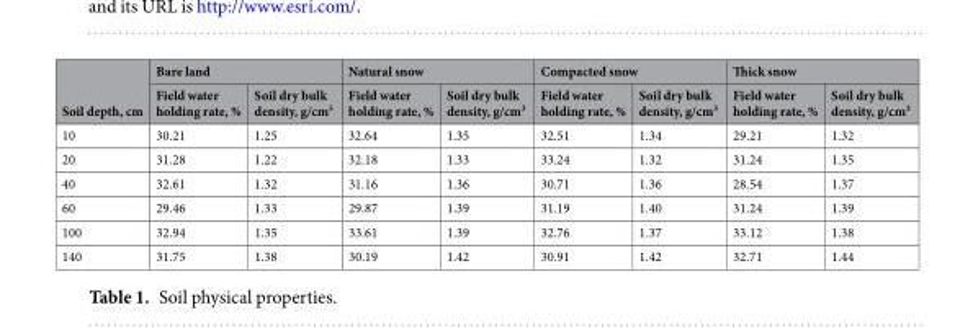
<table><thead><tr><td rowspan="2">Soil depth, cm</td><td colspan="2">Bare land</td><td colspan="2">Natural snow</td><td colspan="2">Compacted snow</td><td colspan="2">Thick snow</td></tr><tr><td>Field water holding rate, %</td><td>Soil dry bulk density, g/cm<sup>3</sup></td><td>Field water holding rate, %</td><td>Soil dry bulk density, g/cm<sup>3</sup></td><td>Field water holding rate, %</td><td>Soil dry bulk density, g/cm<sup>3</sup></td><td>Field water holding rate, %</td><td>Soil dry bulk density, g/cm<sup>3</sup></td></tr></thead><tbody><tr><td>10</td><td>30.21</td><td>1.25</td><td>32.64</td><td>1.35</td><td>32.51</td><td>1.34</td><td>29.21</td><td>1.32</td></tr><tr><td>20</td><td>31.28</td><td>1.22</td><td>32.18</td><td>1.33</td><td>33.24</td><td>1.32</td><td>31.24</td><td>1.35</td></tr><tr><td>40</td><td>32.61</td><td>1.32</td><td>31.16</td><td>1.36</td><td>30.71</td><td>1.36</td><td>28.54</td><td>1.37</td></tr><tr><td>60</td><td>29.46</td><td>1.33</td><td>29.87</td><td>1.39</td><td>31.19</td><td>1.40</td><td>31.24</td><td>1.39</td></tr><tr><td>100</td><td>32.94</td><td>1.35</td><td>33.61</td><td>1.39</td><td>32.76</td><td>1.37</td><td>33.12</td><td>1.38</td></tr><tr><td>140</td><td>31.75</td><td>1.38</td><td>30.19</td><td>1.42</td><td>30.91</td><td>1.42</td><td>32.71</td><td>1.44</td></tr></tbody></table>